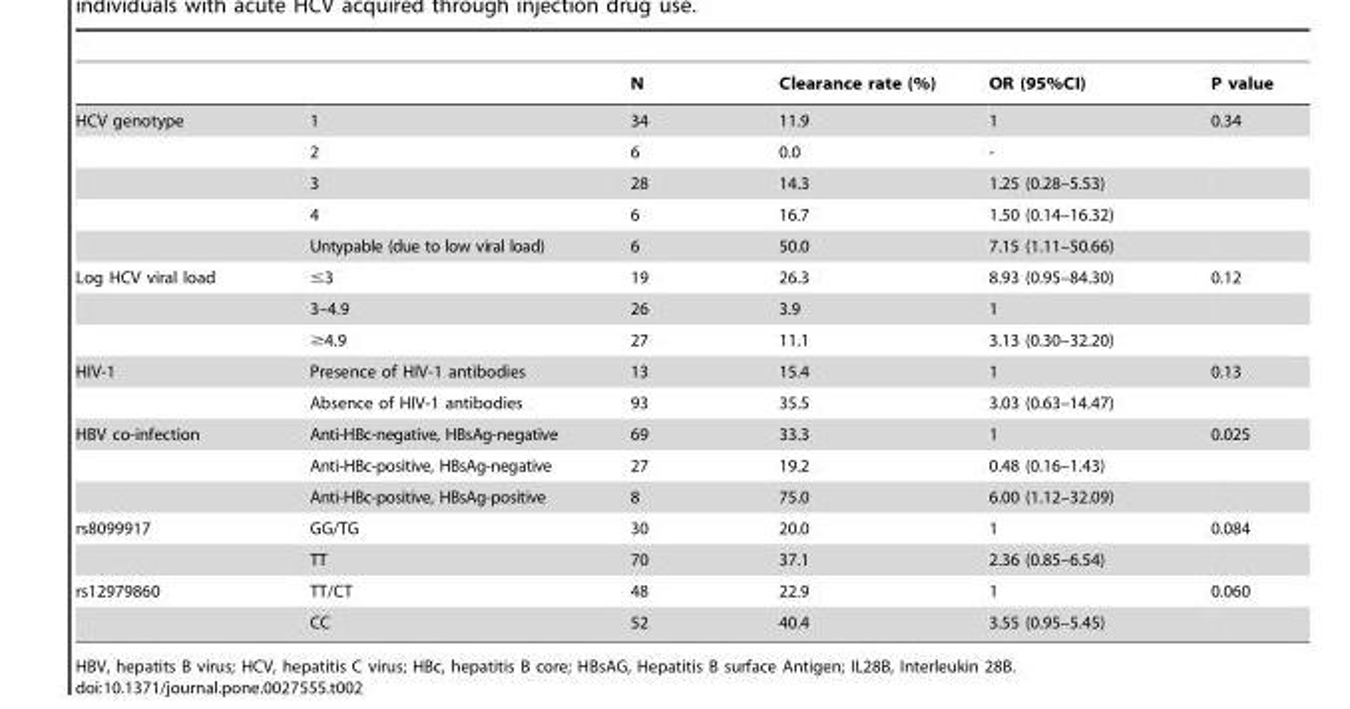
<table><thead><tr><td></td><td></td><td>N</td><td>Clearance rate (%)</td><td>OR (95%CI)</td><td>P value</td></tr></thead><tbody><tr><td rowspan="5">HCV genotype</td><td>1</td><td>34</td><td>11.9</td><td>1</td><td>0.34</td></tr><tr><td>2</td><td>6</td><td>0.0</td><td>-</td><td></td></tr><tr><td>3</td><td>28</td><td>14.3</td><td>1.25 (0.28–5.53)</td><td></td></tr><tr><td>4</td><td>6</td><td>16.7</td><td>1.50 (0.14–16.32)</td><td></td></tr><tr><td>Untypable (due to low viral load)</td><td>6</td><td>50.0</td><td>7.15 (1.11–50.66)</td><td></td></tr><tr><td rowspan="3">Log HCV viral load</td><td>≤3</td><td>19</td><td>26.3</td><td>8.93 (0.95–84.30)</td><td>0.12</td></tr><tr><td>3–4.9</td><td>26</td><td>3.9</td><td>1</td><td></td></tr><tr><td>≥4.9</td><td>27</td><td>11.1</td><td>3.13 (0.30–32.20)</td><td></td></tr><tr><td rowspan="2">HIV-1</td><td>Presence of HIV-1 antibodies</td><td>13</td><td>15.4</td><td>1</td><td>0.13</td></tr><tr><td>Absence of HIV-1 antibodies</td><td>93</td><td>35.5</td><td>3.03 (0.63–14.47)</td><td></td></tr><tr><td rowspan="3">HBV co-infection</td><td>Anti-HBc-negative, HBsAg-negative</td><td>69</td><td>33.3</td><td>1</td><td>0.025</td></tr><tr><td>Anti-HBc-positive, HBsAg-negative</td><td>27</td><td>19.2</td><td>0.48 (0.16–1.43)</td><td></td></tr><tr><td>Anti-HBc-positive, HBsAg-positive</td><td>8</td><td>75.0</td><td>6.00 (1.12–32.09)</td><td></td></tr><tr><td rowspan="2">rs8099917</td><td>GG/TG</td><td>30</td><td>20.0</td><td>1</td><td>0.084</td></tr><tr><td>TT</td><td>70</td><td>37.1</td><td>2.36 (0.85–6.54)</td><td></td></tr><tr><td rowspan="2">rs12979860</td><td>TT/CT</td><td>48</td><td>22.9</td><td>1</td><td>0.060</td></tr><tr><td>CC</td><td>52</td><td>40.4</td><td>3.55 (0.95–5.45)</td><td></td></tr></tbody></table>